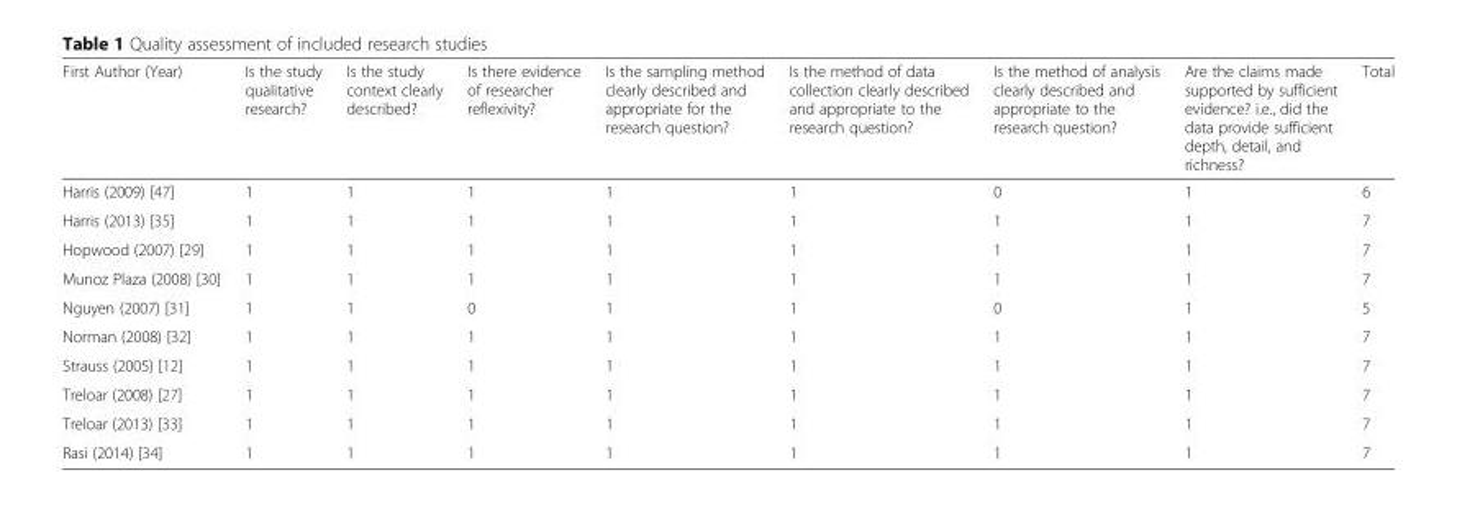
<table><thead><tr><td>First Author (Year)</td><td>Is the study qualitative research?</td><td>Is the study context clearly described?</td><td>Is there evidence of researcher reflexivity?</td><td>Is the sampling method clearly described and appropriate for the research question?</td><td>Is the method of data collection clearly described and appropriate to the research question?</td><td>Is the method of analysis clearly described and appropriate to the research question?</td><td>Are the claims made supported by sufficient evidence? i.e., did the data provide sufficient depth, detail, and richness?</td><td>Total</td></tr></thead><tbody><tr><td>Harris (2009) [47]</td><td>1</td><td>1</td><td>1</td><td>1</td><td>1</td><td>0</td><td>1</td><td>6</td></tr><tr><td>Harris (2013) [35]</td><td>1</td><td>1</td><td>1</td><td>1</td><td>1</td><td>1</td><td>1</td><td>7</td></tr><tr><td>Hopwood (2007) [29]</td><td>1</td><td>1</td><td>1</td><td>1</td><td>1</td><td>1</td><td>1</td><td>7</td></tr><tr><td>Munoz Plaza (2008) [30]</td><td>1</td><td>1</td><td>1</td><td>1</td><td>1</td><td>1</td><td>1</td><td>7</td></tr><tr><td>Nguyen (2007) [31]</td><td>1</td><td>1</td><td>0</td><td>1</td><td>1</td><td>0</td><td>1</td><td>5</td></tr><tr><td>Norman (2008) [32]</td><td>1</td><td>1</td><td>1</td><td>1</td><td>1</td><td>1</td><td>1</td><td>7</td></tr><tr><td>Strauss (2005) [12]</td><td>1</td><td>1</td><td>1</td><td>1</td><td>1</td><td>1</td><td>1</td><td>7</td></tr><tr><td>Treloar (2008) [27]</td><td>1</td><td>1</td><td>1</td><td>1</td><td>1</td><td>1</td><td>1</td><td>7</td></tr><tr><td>Treloar (2013) [33]</td><td>1</td><td>1</td><td>1</td><td>1</td><td>1</td><td>1</td><td>1</td><td>7</td></tr><tr><td>Rasi (2014) [34]</td><td>1</td><td>1</td><td>1</td><td>1</td><td>1</td><td>1</td><td>1</td><td>7</td></tr></tbody></table>